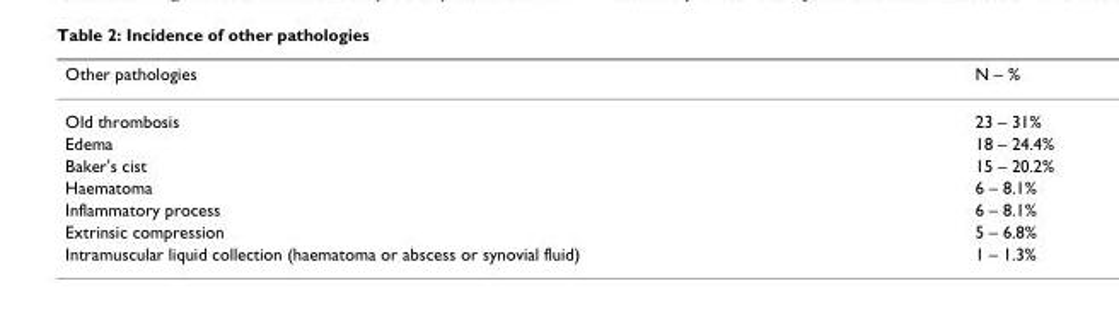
<table><thead><tr><td>Other pathologies</td><td>N – %</td></tr></thead><tbody><tr><td>Old thrombosis</td><td>23 – 31%</td></tr><tr><td>Edema</td><td>18 – 24.4%</td></tr><tr><td>Baker&#x27;s cist</td><td>15 – 20.2%</td></tr><tr><td>Haematoma</td><td>6 – 8.1%</td></tr><tr><td>Inflammatory process</td><td>6 – 8.1%</td></tr><tr><td>Extrinsic compression</td><td>5 – 6.8%</td></tr><tr><td>Intramuscular liquid collection (haematoma or abscess or synovial fluid)</td><td>1 – 1.3%</td></tr></tbody></table>